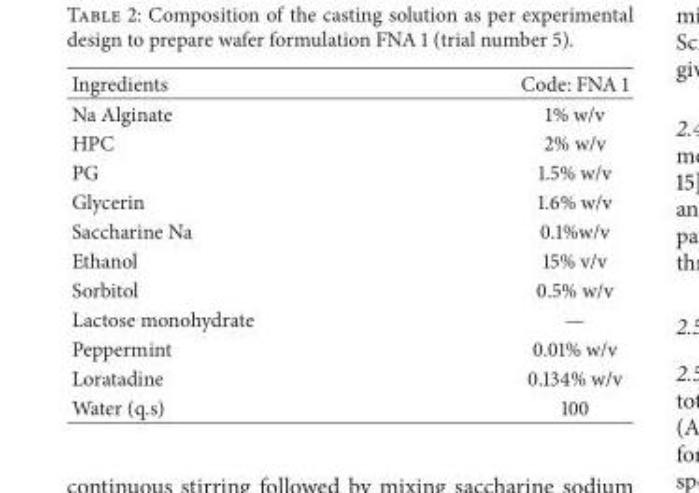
<table><thead><tr><td>Ingredients</td><td>Code: FNA 1</td></tr></thead><tbody><tr><td>Na Alginate</td><td>1% w/v</td></tr><tr><td>HPC</td><td>2% w/v</td></tr><tr><td>PG</td><td>1.5% w/v</td></tr><tr><td>Glycerin</td><td>1.6% w/v</td></tr><tr><td>Saccharine Na</td><td>0.1%w/v</td></tr><tr><td>Ethanol</td><td>15% v/v</td></tr><tr><td>Sorbitol</td><td>0.5% w/v</td></tr><tr><td>Lactose monohydrate</td><td>—</td></tr><tr><td>Peppermint</td><td>0.01% w/v</td></tr><tr><td>Loratadine</td><td>0.134% w/v</td></tr><tr><td>Water (q.s)</td><td>100</td></tr></tbody></table>